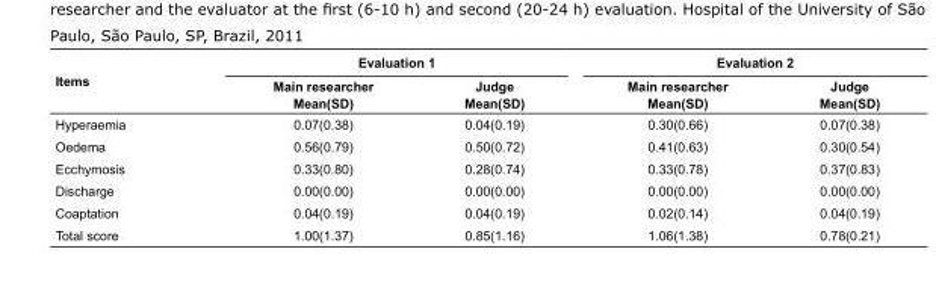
<table><thead><tr><td rowspan="2">Items</td><td colspan="2">Evaluation 1</td><td colspan="2">Evaluation 2</td></tr><tr><td>Main researcher Mean(SD)</td><td>Judge Mean(SD)</td><td>Main researcher Mean(SD)</td><td>Judge Mean(SD)</td></tr></thead><tbody><tr><td>Hyperaemia</td><td>0.07(0.38)</td><td>0.04(0.19)</td><td>0.30(0.66)</td><td>0.07(0.38)</td></tr><tr><td>Oedema</td><td>0.56(0.79)</td><td>0.50(0.72)</td><td>0.41(0.63)</td><td>0.30(0.54)</td></tr><tr><td>Ecchymosis</td><td>0.33(0.80)</td><td>0.28(0.74)</td><td>0.33(0.78)</td><td>0.37(0.83)</td></tr><tr><td>Discharge</td><td>0.00(0.00)</td><td>0.00(0.00)</td><td>0.00(0.00)</td><td>0.00(0.00)</td></tr><tr><td>Coaptation</td><td>0.04(0.19)</td><td>0.04(0.19)</td><td>0.02(0.14)</td><td>0.04(0.19)</td></tr><tr><td>Total score</td><td>1.00(1.37)</td><td>0.85(1.16)</td><td>1.06(1.38)</td><td>0.78(0.21)</td></tr></tbody></table>